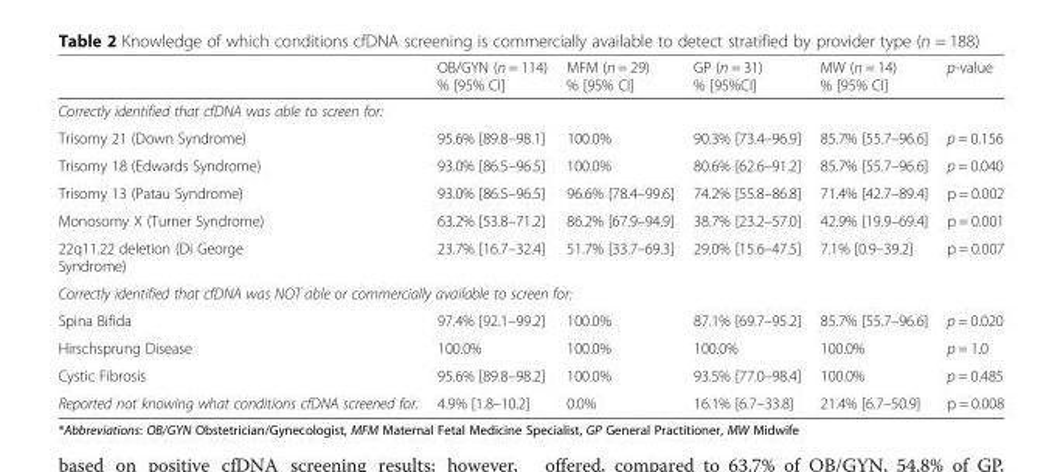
<table><thead><tr><td></td><td>OB/GYN (n = 114) % [95% CI]</td><td>MFM (n = 29) % [95% CI]</td><td>GP (n = 31) % [95%CI]</td><td>MW (n = 14) % [95% CI]</td><td>p-value</td></tr></thead><tbody><tr><td colspan="6">Correctly identified that cfDNA was able to screen for:</td></tr><tr><td>Trisomy 21 (Down Syndrome)</td><td>95.6% [89.8–98.1]</td><td>100.0%</td><td>90.3% [73.4–96.9]</td><td>85.7% [55.7–96.6]</td><td>p = 0.156</td></tr><tr><td>Trisomy 18 (Edwards Syndrome)</td><td>93.0% [86.5–96.5]</td><td>100.0%</td><td>80.6% [62.6–91.2]</td><td>85.7% [55.7–96.6]</td><td>p = 0.040</td></tr><tr><td>Trisomy 13 (Patau Syndrome)</td><td>93.0% [86.5–96.5]</td><td>96.6% [78.4–99.6]</td><td>74.2% [55.8–86.8]</td><td>71.4% [42.7–89.4]</td><td>p = 0.002</td></tr><tr><td>Monosomy X (Turner Syndrome)</td><td>63.2% [53.8–71.2]</td><td>86.2% [67.9–94.9]</td><td>38.7% [23.2–57.0]</td><td>42.9% [19.9–69.4]</td><td>p = 0.001</td></tr><tr><td>22q11.22 deletion (Di George Syndrome)</td><td>23.7% [16.7–32.4]</td><td>51.7% [33.7–69.3]</td><td>29.0% [15.6–47.5]</td><td>7.1% [0.9–39.2]</td><td>p = 0.007</td></tr><tr><td colspan="6">Correctly identified that cfDNA was NOT able or commercially available to screen for:</td></tr><tr><td>Spina Bifida</td><td>97.4% [92.1–99.2]</td><td>100.0%</td><td>87.1% [69.7–95.2]</td><td>85.7% [55.7–96.6]</td><td>p = 0.020</td></tr><tr><td>Hirschsprung Disease</td><td>100.0%</td><td>100.0%</td><td>100.0%</td><td>100.0%</td><td>p = 1.0</td></tr><tr><td>Cystic Fibrosis</td><td>95.6% [89.8–98.2]</td><td>100.0%</td><td>93.5% [77.0–98.4]</td><td>100.0%</td><td>p = 0.485</td></tr><tr><td>Reported not knowing what conditions cfDNA screened for.</td><td>4.9% [1.8–10.2]</td><td>0.0%</td><td>16.1% [6.7–33.8]</td><td>21.4% [6.7–50.9]</td><td>p = 0.008</td></tr></tbody></table>